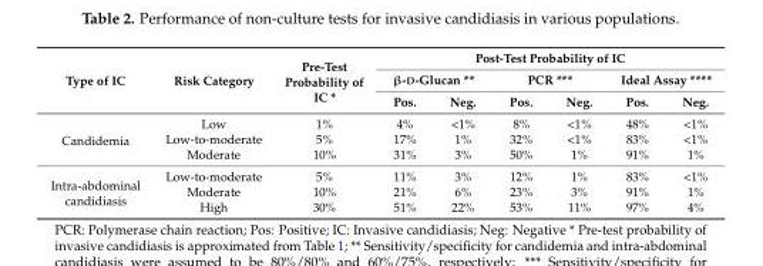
<table><thead><tr><td rowspan="3">Type of IC</td><td rowspan="3">Risk Category</td><td rowspan="3">Pre-Test Probability of IC *</td><td colspan="6">Post-Test Probability of IC</td></tr><tr><td colspan="2">β-D-Glucan **</td><td colspan="2">PCR ***</td><td colspan="2">Ideal Assay ****</td></tr><tr><td>Pos.</td><td>Neg.</td><td>Pos.</td><td>Neg.</td><td>Pos.</td><td>Neg.</td></tr></thead><tbody><tr><td rowspan="3">Candidemia</td><td>Low</td><td>1%</td><td>4%</td><td>&lt;1%</td><td>8%</td><td>&lt;1%</td><td>48%</td><td>&lt;1%</td></tr><tr><td>Low-to-moderate</td><td>5%</td><td>17%</td><td>1%</td><td>32%</td><td>&lt;1%</td><td>83%</td><td>&lt;1%</td></tr><tr><td>Moderate</td><td>10%</td><td>31%</td><td>3%</td><td>50%</td><td>1%</td><td>91%</td><td>1%</td></tr><tr><td rowspan="3">Intra-abdominal candidiasis</td><td>Low-to-moderate</td><td>5%</td><td>11%</td><td>3%</td><td>12%</td><td>1%</td><td>83%</td><td>&lt;1%</td></tr><tr><td>Moderate</td><td>10%</td><td>21%</td><td>6%</td><td>23%</td><td>3%</td><td>91%</td><td>1%</td></tr><tr><td>High</td><td>30%</td><td>51%</td><td>22%</td><td>53%</td><td>11%</td><td>97%</td><td>4%</td></tr></tbody></table>